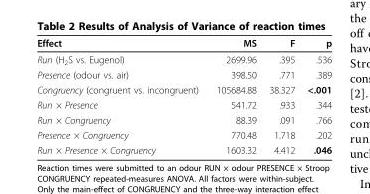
<table><thead><tr><td>Effect</td><td>MS</td><td>F</td><td>p</td></tr></thead><tbody><tr><td>Run (H<sub>2</sub>S vs. Eugenol)</td><td>2699.96</td><td>.395</td><td>.536</td></tr><tr><td>Presence (odour vs. air)</td><td>398.50</td><td>.771</td><td>.389</td></tr><tr><td>Congruency (congruent vs. incongruent)</td><td>105684.88</td><td>38.327</td><td>&lt;.001</td></tr><tr><td>Run × Presence</td><td>541.72</td><td>.933</td><td>.344</td></tr><tr><td>Run × Congruency</td><td>88.39</td><td>.091</td><td>.766</td></tr><tr><td>Presence × Congruency</td><td>770.48</td><td>1.718</td><td>.202</td></tr><tr><td>Run × Presence × Congruency</td><td>1603.32</td><td>4.412</td><td>.046</td></tr></tbody></table>